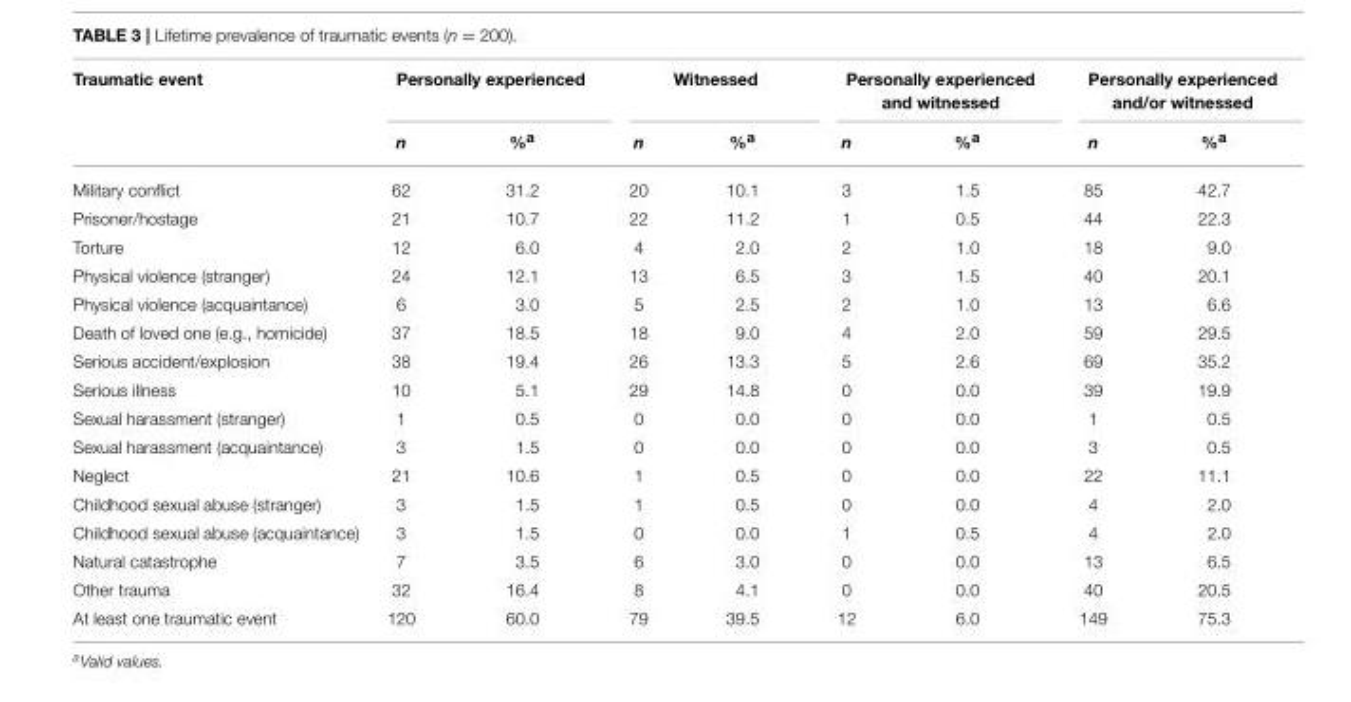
<table><thead><tr><td rowspan="2">Traumatic event</td><td colspan="2">Personally experienced</td><td colspan="2">Witnessed</td><td colspan="2">Personally experienced and witnessed</td><td colspan="2">Personally experienced and/or witnessed</td></tr><tr><td>n</td><td>%<sup>a</sup></td><td>n</td><td>%<sup>a</sup></td><td>n</td><td>%<sup>a</sup></td><td>n</td><td>%<sup>a</sup></td></tr></thead><tbody><tr><td>Military conflict</td><td>62</td><td>31.2</td><td>20</td><td>10.1</td><td>3</td><td>1.5</td><td>85</td><td>42.7</td></tr><tr><td>Prisoner/hostage</td><td>21</td><td>10.7</td><td>22</td><td>11.2</td><td>1</td><td>0.5</td><td>44</td><td>22.3</td></tr><tr><td>Torture</td><td>12</td><td>6.0</td><td>4</td><td>2.0</td><td>2</td><td>1.0</td><td>18</td><td>9.0</td></tr><tr><td>Physical violence (stranger)</td><td>24</td><td>12.1</td><td>13</td><td>6.5</td><td>3</td><td>1.5</td><td>40</td><td>20.1</td></tr><tr><td>Physical violence (acquaintance)</td><td>6</td><td>3.0</td><td>5</td><td>2.5</td><td>2</td><td>1.0</td><td>13</td><td>6.6</td></tr><tr><td>Death of loved one (e.g., homicide)</td><td>37</td><td>18.5</td><td>18</td><td>9.0</td><td>4</td><td>2.0</td><td>59</td><td>29.5</td></tr><tr><td>Serious accident/explosion</td><td>38</td><td>19.4</td><td>26</td><td>13.3</td><td>5</td><td>2.6</td><td>69</td><td>35.2</td></tr><tr><td>Serious illness</td><td>10</td><td>5.1</td><td>29</td><td>14.8</td><td>0</td><td>0.0</td><td>39</td><td>19.9</td></tr><tr><td>Sexual harassment (stranger)</td><td>1</td><td>0.5</td><td>0</td><td>0.0</td><td>0</td><td>0.0</td><td>1</td><td>0.5</td></tr><tr><td>Sexual harassment (acquaintance)</td><td>3</td><td>1.5</td><td>0</td><td>0.0</td><td>0</td><td>0.0</td><td>3</td><td>0.5</td></tr><tr><td>Neglect</td><td>21</td><td>10.6</td><td>1</td><td>0.5</td><td>0</td><td>0.0</td><td>22</td><td>11.1</td></tr><tr><td>Childhood sexual abuse (stranger)</td><td>3</td><td>1.5</td><td>1</td><td>0.5</td><td>0</td><td>0.0</td><td>4</td><td>2.0</td></tr><tr><td>Childhood sexual abuse (acquaintance)</td><td>3</td><td>1.5</td><td>0</td><td>0.0</td><td>1</td><td>0.5</td><td>4</td><td>2.0</td></tr><tr><td>Natural catastrophe</td><td>7</td><td>3.5</td><td>6</td><td>3.0</td><td>0</td><td>0.0</td><td>13</td><td>6.5</td></tr><tr><td>Other trauma</td><td>32</td><td>16.4</td><td>8</td><td>4.1</td><td>0</td><td>0.0</td><td>40</td><td>20.5</td></tr><tr><td>At least one traumatic event</td><td>120</td><td>60.0</td><td>79</td><td>39.5</td><td>12</td><td>6.0</td><td>149</td><td>75.3</td></tr></tbody></table>